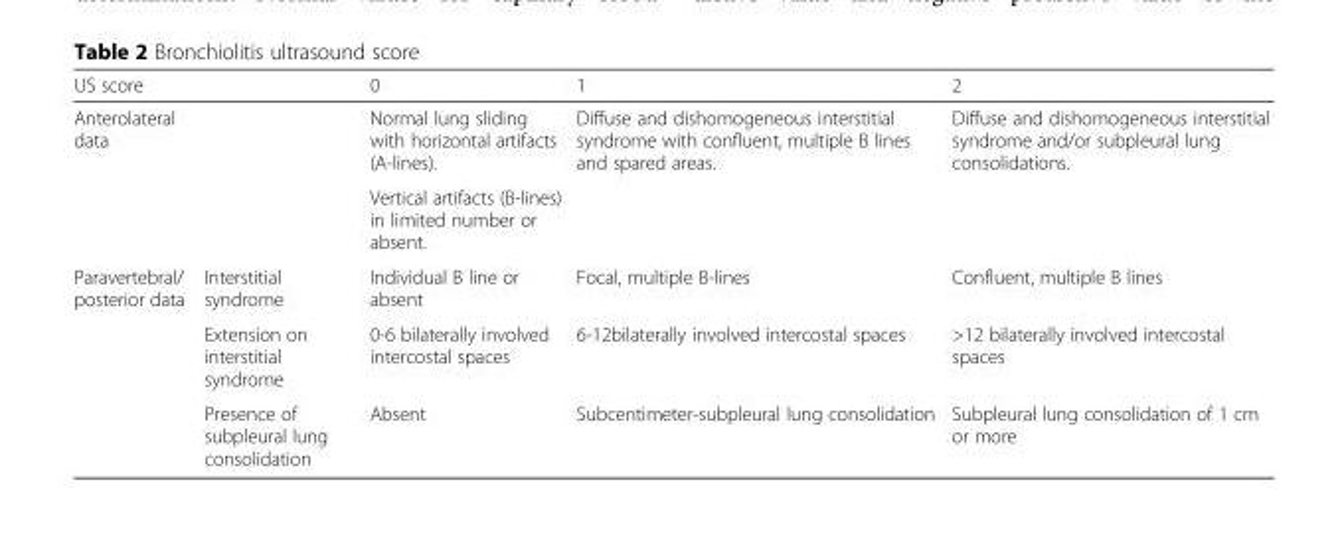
<table><thead><tr><td>US score</td><td></td><td>0</td><td>1</td><td>2</td></tr></thead><tbody><tr><td rowspan="2">Anterolateral data</td><td rowspan="2"></td><td>Normal lung sliding with horizontal artifacts (A-lines).</td><td rowspan="2">Diffuse and dishomogeneous interstitial syndrome with confluent, multiple B lines and spared areas.</td><td rowspan="2">Diffuse and dishomogeneous interstitial syndrome and/or subpleural lung consolidations.</td></tr><tr><td>Vertical artifacts (B-lines) in limited number or absent.</td></tr><tr><td rowspan="3">Paravertebral/ posterior data</td><td>Interstitial syndrome</td><td>Individual B line or absent</td><td>Focal, multiple B-lines</td><td>Confluent, multiple B lines</td></tr><tr><td>Extension on interstitial syndrome</td><td>0-6 bilaterally involved intercostal spaces</td><td>6-12bilaterally involved intercostal spaces</td><td>&gt;12 bilaterally involved intercostal spaces</td></tr><tr><td>Presence of subpleural lung consolidation</td><td>Absent</td><td>Subcentimeter-subpleural lung consolidation</td><td>Subpleural lung consolidation of 1 cm or more</td></tr></tbody></table>